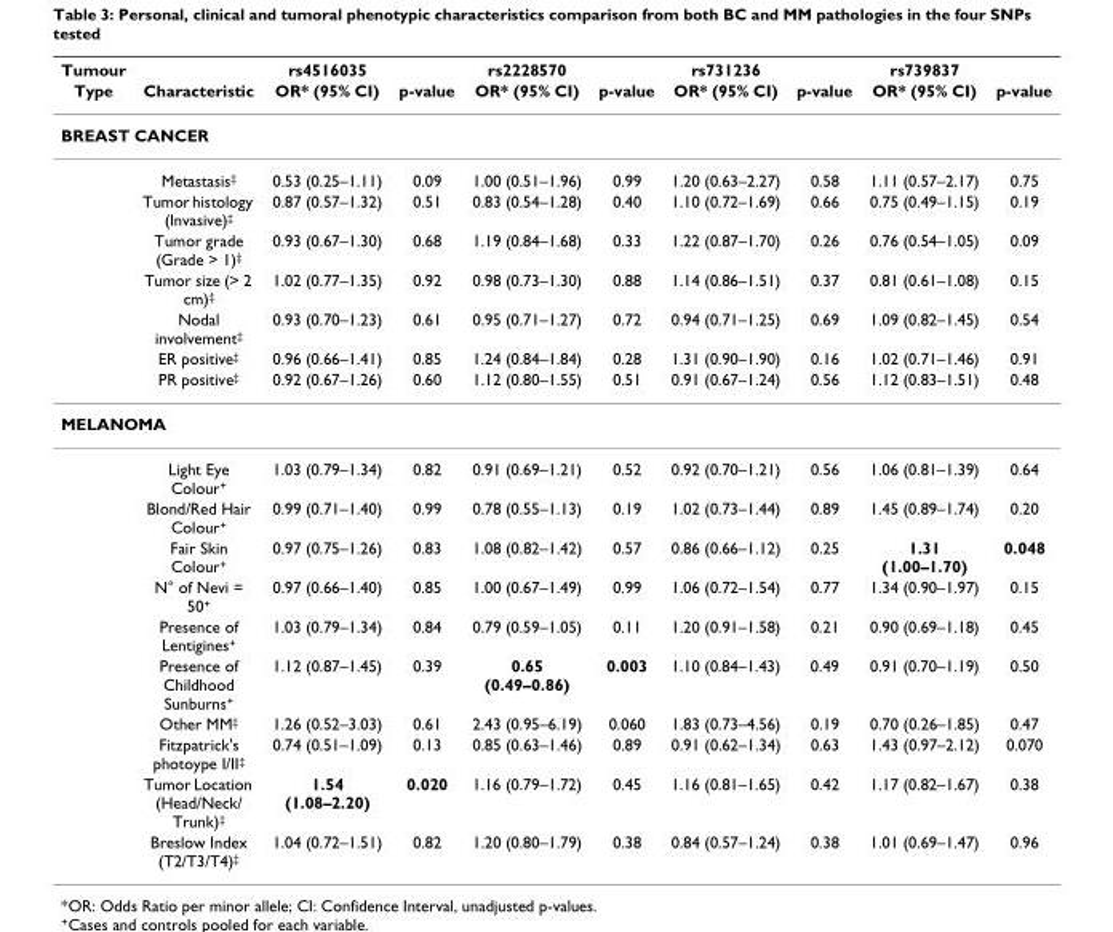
<table><thead><tr><td rowspan="2">Tumour Type</td><td rowspan="2">Characteristic</td><td rowspan="2">rs4516035 OR* (95% CI)</td><td rowspan="2">p-value</td><td rowspan="2">rs2228570 OR* (95% CI)</td><td rowspan="2">p-value</td><td rowspan="2">rs731236 OR* (95% CI)</td><td rowspan="2">p-value</td><td rowspan="2">rs739837 OR* (95% CI)</td><td rowspan="2">p-value</td></tr><tr></tr></thead><tbody><tr><td colspan="10">BREAST CANCER</td></tr><tr><td></td><td>Metastasis<sup>‡</sup></td><td>0.53 (0.25–1.11)</td><td>0.09</td><td>1.00 (0.51–1.96)</td><td>0.99</td><td>1.20 (0.63–2.27)</td><td>0.58</td><td>1.11 (0.57–2.17)</td><td>0.75</td></tr><tr><td></td><td>Tumor histology (Invasive)<sup>‡</sup></td><td>0.87 (0.57–1.32)</td><td>0.51</td><td>0.83 (0.54–1.28)</td><td>0.40</td><td>1.10 (0.72–1.69)</td><td>0.66</td><td>0.75 (0.49–1.15)</td><td>0.19</td></tr><tr><td></td><td>Tumor grade (Grade &gt; 1)<sup>‡</sup></td><td>0.93 (0.67–1.30)</td><td>0.68</td><td>1.19 (0.84–1.68)</td><td>0.33</td><td>1.22 (0.87–1.70)</td><td>0.26</td><td>0.76 (0.54–1.05)</td><td>0.09</td></tr><tr><td></td><td>Tumor size (&gt; 2 cm)<sup>‡</sup></td><td>1.02 (0.77–1.35)</td><td>0.92</td><td>0.98 (0.73–1.30)</td><td>0.88</td><td>1.14 (0.86–1.51)</td><td>0.37</td><td>0.81 (0.61–1.08)</td><td>0.15</td></tr><tr><td></td><td>Nodal involvement<sup>‡</sup></td><td>0.93 (0.70–1.23)</td><td>0.61</td><td>0.95 (0.71–1.27)</td><td>0.72</td><td>0.94 (0.71–1.25)</td><td>0.69</td><td>1.09 (0.82–1.45)</td><td>0.54</td></tr><tr><td></td><td>ER positive<sup>‡</sup></td><td>0.96 (0.66–1.41)</td><td>0.85</td><td>1.24 (0.84–1.84)</td><td>0.28</td><td>1.31 (0.90–1.90)</td><td>0.16</td><td>1.02 (0.71–1.46)</td><td>0.91</td></tr><tr><td></td><td>PR positive<sup>‡</sup></td><td>0.92 (0.67–1.26)</td><td>0.60</td><td>1.12 (0.80–1.55)</td><td>0.51</td><td>0.91 (0.67–1.24)</td><td>0.56</td><td>1.12 (0.83–1.51)</td><td>0.48</td></tr><tr><td colspan="10">MELANOMA</td></tr><tr><td></td><td>Light Eye Colour<sup>+</sup></td><td>1.03 (0.79–1.34)</td><td>0.82</td><td>0.91 (0.69–1.21)</td><td>0.52</td><td>0.92 (0.70–1.21)</td><td>0.56</td><td>1.06 (0.81–1.39)</td><td>0.64</td></tr><tr><td></td><td>Blond/Red Hair Colour<sup>+</sup></td><td>0.99 (0.71–1.40)</td><td>0.99</td><td>0.78 (0.55–1.13)</td><td>0.19</td><td>1.02 (0.73–1.44)</td><td>0.89</td><td>1.45 (0.89–1.74)</td><td>0.20</td></tr><tr><td></td><td>Fair Skin Colour<sup>+</sup></td><td>0.97 (0.75–1.26)</td><td>0.83</td><td>1.08 (0.82–1.42)</td><td>0.57</td><td>0.86 (0.66–1.12)</td><td>0.25</td><td>1.31 (1.00–1.70)</td><td>0.048</td></tr><tr><td></td><td>N° of Nevi = 50<sup>+</sup></td><td>0.97 (0.66–1.40)</td><td>0.85</td><td>1.00 (0.67–1.49)</td><td>0.99</td><td>1.06 (0.72–1.54)</td><td>0.77</td><td>1.34 (0.90–1.97)</td><td>0.15</td></tr><tr><td></td><td>Presence of Lentigines<sup>+</sup></td><td>1.03 (0.79–1.34)</td><td>0.84</td><td>0.79 (0.59–1.05)</td><td>0.11</td><td>1.20 (0.91–1.58)</td><td>0.21</td><td>0.90 (0.69–1.18)</td><td>0.45</td></tr><tr><td></td><td>Presence of Childhood Sunburns<sup>+</sup></td><td>1.12 (0.87–1.45)</td><td>0.39</td><td>0.65 (0.49–0.86)</td><td>0.003</td><td>1.10 (0.84–1.43)</td><td>0.49</td><td>0.91 (0.70–1.19)</td><td>0.50</td></tr><tr><td></td><td>Other MM<sup>‡</sup></td><td>1.26 (0.52–3.03)</td><td>0.61</td><td>2.43 (0.95–6.19)</td><td>0.060</td><td>1.83 (0.73–4.56)</td><td>0.19</td><td>0.70 (0.26–1.85)</td><td>0.47</td></tr><tr><td></td><td>Fitzpatrick&#x27;s photoype I/II<sup>‡</sup></td><td>0.74 (0.51–1.09)</td><td>0.13</td><td>0.85 (0.63–1.46)</td><td>0.89</td><td>0.91 (0.62–1.34)</td><td>0.63</td><td>1.43 (0.97–2.12)</td><td>0.070</td></tr><tr><td></td><td>Tumor Location (Head/Neck/ Trunk)<sup>‡</sup></td><td>1.54 (1.08–2.20)</td><td>0.020</td><td>1.16 (0.79–1.72)</td><td>0.45</td><td>1.16 (0.81–1.65)</td><td>0.42</td><td>1.17 (0.82–1.67)</td><td>0.38</td></tr><tr><td></td><td>Breslow Index (T2/T3/T4)<sup>‡</sup></td><td>1.04 (0.72–1.51)</td><td>0.82</td><td>1.20 (0.80–1.79)</td><td>0.38</td><td>0.84 (0.57–1.24)</td><td>0.38</td><td>1.01 (0.69–1.47)</td><td>0.96</td></tr></tbody></table>